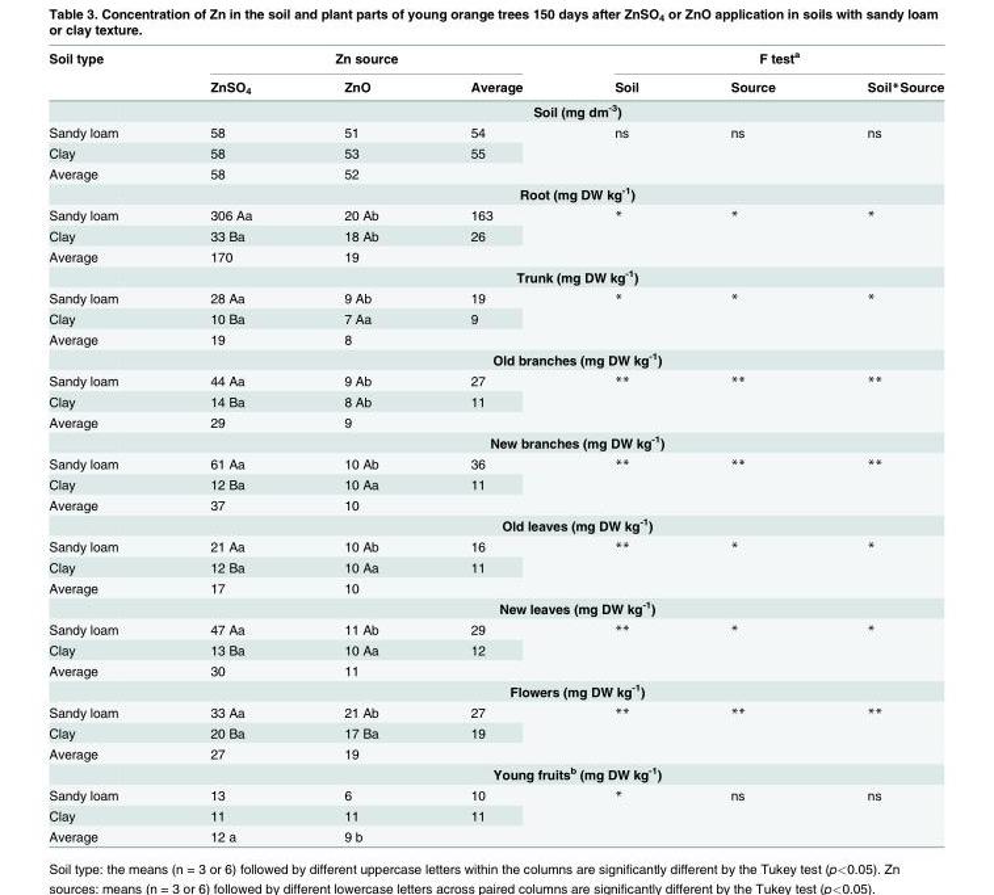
<table><thead><tr><td rowspan="2">Soil type</td><td colspan="3">Zn source</td><td colspan="3">F test<sup>a</sup></td></tr><tr><td>ZnSO<sub>4</sub></td><td>ZnO</td><td>Average</td><td>Soil</td><td>Source</td><td>Soil*Source</td></tr></thead><tbody><tr><td></td><td colspan="6">Soil (mg dm<sup>-3</sup>)</td></tr><tr><td>Sandy loam</td><td>58</td><td>51</td><td>54</td><td rowspan="2">ns</td><td rowspan="2">ns</td><td rowspan="2">ns</td></tr><tr><td>Clay</td><td>58</td><td>53</td><td>55</td></tr><tr><td rowspan="2">Average</td><td>58</td><td>52</td><td></td><td></td><td></td><td></td></tr><tr><td colspan="6">Root (mg DW kg<sup>-1</sup>)</td></tr><tr><td>Sandy loam</td><td>306 Aa</td><td>20 Ab</td><td>163</td><td rowspan="2">*</td><td rowspan="2">*</td><td rowspan="2">*</td></tr><tr><td>Clay</td><td>33 Ba</td><td>18 Ab</td><td>26</td></tr><tr><td rowspan="2">Average</td><td>170</td><td>19</td><td></td><td></td><td></td><td></td></tr><tr><td colspan="6">Trunk (mg DW kg<sup>-1</sup>)</td></tr><tr><td>Sandy loam</td><td>28 Aa</td><td>9 Ab</td><td>19</td><td rowspan="2">*</td><td rowspan="2">*</td><td rowspan="2">*</td></tr><tr><td>Clay</td><td>10 Ba</td><td>7 Aa</td><td>9</td></tr><tr><td rowspan="2">Average</td><td>19</td><td>8</td><td></td><td></td><td></td><td></td></tr><tr><td colspan="6">Old branches (mg DW kg<sup>-1</sup>)</td></tr><tr><td>Sandy loam</td><td>44 Aa</td><td>9 Ab</td><td>27</td><td rowspan="2">**</td><td rowspan="2">**</td><td rowspan="2">**</td></tr><tr><td>Clay</td><td>14 Ba</td><td>8 Ab</td><td>11</td></tr><tr><td rowspan="2">Average</td><td>29</td><td>9</td><td></td><td></td><td></td><td></td></tr><tr><td colspan="6">New branches (mg DW kg<sup>-1</sup>)</td></tr><tr><td>Sandy loam</td><td>61 Aa</td><td>10 Ab</td><td>36</td><td rowspan="2">**</td><td rowspan="2">**</td><td rowspan="2">**</td></tr><tr><td>Clay</td><td>12 Ba</td><td>10 Aa</td><td>11</td></tr><tr><td rowspan="2">Average</td><td>37</td><td>10</td><td></td><td></td><td></td><td></td></tr><tr><td colspan="6">Old leaves (mg DW kg<sup>-1</sup>)</td></tr><tr><td>Sandy loam</td><td>21 Aa</td><td>10 Ab</td><td>16</td><td rowspan="2">**</td><td rowspan="2">*</td><td rowspan="2">*</td></tr><tr><td>Clay</td><td>12 Ba</td><td>10 Aa</td><td>11</td></tr><tr><td rowspan="2">Average</td><td>17</td><td>10</td><td></td><td></td><td></td><td></td></tr><tr><td colspan="6">New leaves (mg DW kg<sup>-1</sup>)</td></tr><tr><td>Sandy loam</td><td>47 Aa</td><td>11 Ab</td><td>29</td><td rowspan="2">**</td><td rowspan="2">*</td><td rowspan="2">*</td></tr><tr><td>Clay</td><td>13 Ba</td><td>10 Aa</td><td>12</td></tr><tr><td rowspan="2">Average</td><td>30</td><td>11</td><td></td><td></td><td></td><td></td></tr><tr><td colspan="6">Flowers (mg DW kg<sup>-1</sup>)</td></tr><tr><td>Sandy loam</td><td>33 Aa</td><td>21 Ab</td><td>27</td><td rowspan="2">**</td><td rowspan="2">**</td><td rowspan="2">**</td></tr><tr><td>Clay</td><td>20 Ba</td><td>17 Ba</td><td>19</td></tr><tr><td rowspan="2">Average</td><td>27</td><td>19</td><td></td><td></td><td></td><td></td></tr><tr><td colspan="6">Young fruits<sup>b</sup> (mg DW kg<sup>-1</sup>)</td></tr><tr><td>Sandy loam</td><td>13</td><td>6</td><td>10</td><td rowspan="2">*</td><td rowspan="2">ns</td><td rowspan="2">ns</td></tr><tr><td>Clay</td><td>11</td><td>11</td><td>11</td></tr><tr><td>Average</td><td>12 a</td><td>9 b</td><td></td><td></td><td></td><td></td></tr></tbody></table>